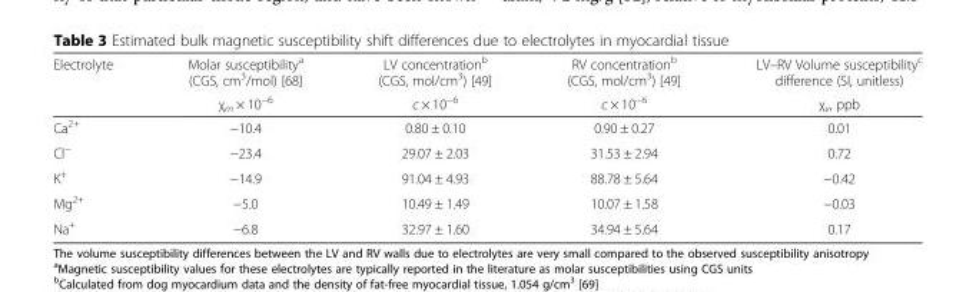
<table><thead><tr><td rowspan="2">Electrolyte</td><td rowspan="2">Molar susceptibility<sup>a</sup> (CGS, cm<sup>3</sup>/mol) [68] χ<sub>m</sub> × 10<sup>−6</sup></td><td rowspan="2">LV concentration<sup>b</sup> (CGS, mol/cm<sup>3</sup>) [49] c × 10<sup>−6</sup></td><td rowspan="2">RV concentration<sup>b</sup> (CGS, mol/cm<sup>3</sup>) [49] c × 10<sup>−6</sup></td><td rowspan="2">LV–RV Volume susceptibility<sup>c</sup> difference (SI, unitless) χ<sub>v</sub>, ppb</td></tr><tr></tr></thead><tbody><tr><td>Ca<sup>2+</sup></td><td>−10.4</td><td>0.80 ± 0.10</td><td>0.90 ± 0.27</td><td>0.01</td></tr><tr><td>Cl<sup>−</sup></td><td>−23.4</td><td>29.07 ± 2.03</td><td>31.53 ± 2.94</td><td>0.72</td></tr><tr><td>K<sup>+</sup></td><td>−14.9</td><td>91.04 ± 4.93</td><td>88.78 ± 5.64</td><td>−0.42</td></tr><tr><td>Mg<sup>2+</sup></td><td>−5.0</td><td>10.49 ± 1.49</td><td>10.07 ± 1.58</td><td>−0.03</td></tr><tr><td>Na<sup>+</sup></td><td>−6.8</td><td>32.97 ± 1.60</td><td>34.94 ± 5.64</td><td>0.17</td></tr></tbody></table>